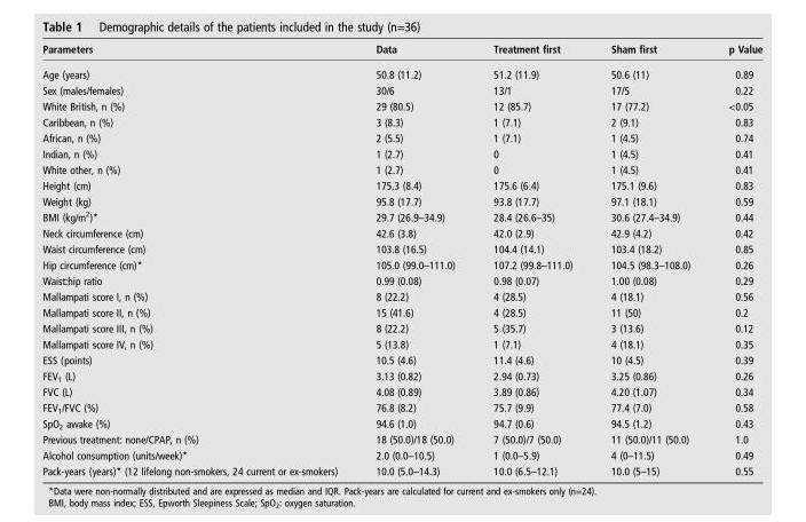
<table><thead><tr><td>Parameters</td><td>Data</td><td>Treatment first</td><td>Sham first</td><td>p Value</td></tr></thead><tbody><tr><td>Age (years)</td><td>50.8 (11.2)</td><td>51.2 (11.9)</td><td>50.6 (11)</td><td>0.89</td></tr><tr><td>Sex (males/females)</td><td>30/6</td><td>13/1</td><td>17/5</td><td>0.22</td></tr><tr><td>White British, n (%)</td><td>29 (80.5)</td><td>12 (85.7)</td><td>17 (77.2)</td><td>&lt;0.05</td></tr><tr><td>Caribbean, n (%)</td><td>3 (8.3)</td><td>1 (7.1)</td><td>2 (9.1)</td><td>0.83</td></tr><tr><td>African, n (%)</td><td>2 (5.5)</td><td>1 (7.1)</td><td>1 (4.5)</td><td>0.74</td></tr><tr><td>Indian, n (%)</td><td>1 (2.7)</td><td>0</td><td>1 (4.5)</td><td>0.41</td></tr><tr><td>White other, n (%)</td><td>1 (2.7)</td><td>0</td><td>1 (4.5)</td><td>0.41</td></tr><tr><td>Height (cm)</td><td>175.3 (8.4)</td><td>175.6 (6.4)</td><td>175.1 (9.6)</td><td>0.83</td></tr><tr><td>Weight (kg)</td><td>95.8 (17.7)</td><td>93.8 (17.7)</td><td>97.1 (18.1)</td><td>0.59</td></tr><tr><td>BMI (kg/m<sup>2</sup>)*</td><td>29.7 (26.9–34.9)</td><td>28.4 (26.6–35)</td><td>30.6 (27.4–34.9)</td><td>0.44</td></tr><tr><td>Neck circumference (cm)</td><td>42.6 (3.8)</td><td>42.0 (2.9)</td><td>42.9 (4.2)</td><td>0.42</td></tr><tr><td>Waist circumference (cm)</td><td>103.8 (16.5)</td><td>104.4 (14.1)</td><td>103.4 (18.2)</td><td>0.85</td></tr><tr><td>Hip circumference (cm)*</td><td>105.0 (99.0–111.0)</td><td>107.2 (99.8–111.0)</td><td>104.5 (98.3–108.0)</td><td>0.26</td></tr><tr><td>Waist:hip ratio</td><td>0.99 (0.08)</td><td>0.98 (0.07)</td><td>1.00 (0.08)</td><td>0.29</td></tr><tr><td>Mallampati score I, n (%)</td><td>8 (22.2)</td><td>4 (28.5)</td><td>4 (18.1)</td><td>0.56</td></tr><tr><td>Mallampati score II, n (%)</td><td>15 (41.6)</td><td>4 (28.5)</td><td>11 (50)</td><td>0.2</td></tr><tr><td>Mallampati score III, n (%)</td><td>8 (22.2)</td><td>5 (35.7)</td><td>3 (13.6)</td><td>0.12</td></tr><tr><td>Mallampati score IV, n (%)</td><td>5 (13.8)</td><td>1 (7.1)</td><td>4 (18.1)</td><td>0.35</td></tr><tr><td>ESS (points)</td><td>10.5 (4.6)</td><td>11.4 (4.6)</td><td>10 (4.5)</td><td>0.39</td></tr><tr><td>FEV<sub>1</sub> (L)</td><td>3.13 (0.82)</td><td>2.94 (0.73)</td><td>3.25 (0.86)</td><td>0.26</td></tr><tr><td>FVC (L)</td><td>4.08 (0.89)</td><td>3.89 (0.86)</td><td>4.20 (1.07)</td><td>0.34</td></tr><tr><td>FEV<sub>1</sub>/FVC (%)</td><td>76.8 (8.2)</td><td>75.7 (9.9)</td><td>77.4 (7.0)</td><td>0.58</td></tr><tr><td>SpO<sub>2</sub> awake (%)</td><td>94.6 (1.0)</td><td>94.7 (0.6)</td><td>94.5 (1.2)</td><td>0.43</td></tr><tr><td>Previous treatment: none/CPAP, n (%)</td><td>18 (50.0)/18 (50.0)</td><td>7 (50.0)/7 (50.0)</td><td>11 (50.0)/11 (50.0)</td><td>1.0</td></tr><tr><td>Alcohol consumption (units/week)*</td><td>2.0 (0.0–10.5)</td><td>1 (0.0–5.9)</td><td>4 (0–11.5)</td><td>0.49</td></tr><tr><td>Pack-years (years)* (12 lifelong non-smokers, 24 current or ex-smokers)</td><td>10.0 (5.0–14.3)</td><td>10.0 (6.5–12.1)</td><td>10.0 (5–15)</td><td>0.55</td></tr></tbody></table>